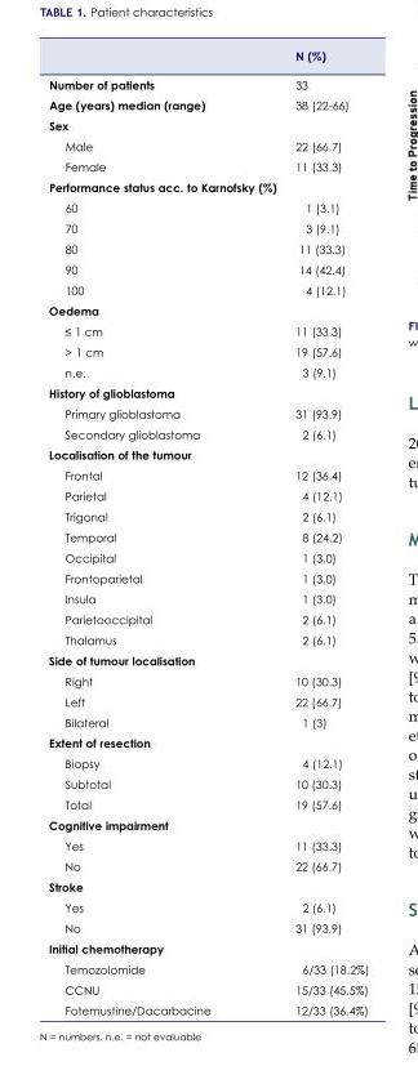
<table><thead><tr><td></td><td>N (%)</td></tr></thead><tbody><tr><td>Number of patients</td><td>33</td></tr><tr><td>Age (years) median (range)</td><td>38 (22-66)</td></tr><tr><td colspan="2">Sex</td></tr><tr><td>Male</td><td>22 (66.7)</td></tr><tr><td>Female</td><td>11 (33.3)</td></tr><tr><td colspan="2">Performance status acc. to Karnofsky (%)</td></tr><tr><td>60</td><td>1 (3.1)</td></tr><tr><td>70</td><td>3 (9.1)</td></tr><tr><td>80</td><td>11 (33.3)</td></tr><tr><td>90</td><td>14 (42.4)</td></tr><tr><td>100</td><td>4 (12.1)</td></tr><tr><td colspan="2">Oedema</td></tr><tr><td>≤ 1 cm</td><td>11 (33.3)</td></tr><tr><td>&gt; 1 cm</td><td>19 (57.6)</td></tr><tr><td>n.e.</td><td>3 (9.1)</td></tr><tr><td colspan="2">History of glioblastoma</td></tr><tr><td>Primary glioblastoma</td><td>31 (93.9)</td></tr><tr><td>Secondary glioblastoma</td><td>2 (6.1)</td></tr><tr><td colspan="2">Localisation of the tumour</td></tr><tr><td>Frontal</td><td>12 (36.4)</td></tr><tr><td>Parietal</td><td>4 (12.1)</td></tr><tr><td>Trigonal</td><td>2 (6.1)</td></tr><tr><td>Temporal</td><td>8 (24.2)</td></tr><tr><td>Occipital</td><td>1 (3.0)</td></tr><tr><td>Frontoparietal</td><td>1 (3.0)</td></tr><tr><td>Insula</td><td>1 (3.0)</td></tr><tr><td>Parietooccipital</td><td>2 (6.1)</td></tr><tr><td>Thalamus</td><td>2 (6.1)</td></tr><tr><td colspan="2">Side of tumour localisation</td></tr><tr><td>Right</td><td>10 (30.3)</td></tr><tr><td>Left</td><td>22 (66.7)</td></tr><tr><td>Bilateral</td><td>1 (3)</td></tr><tr><td colspan="2">Extent of resection</td></tr><tr><td>Biopsy</td><td>4 (12.1)</td></tr><tr><td>Subtotal</td><td>10 (30.3)</td></tr><tr><td>Total</td><td>19 (57.6)</td></tr><tr><td colspan="2">Cognitive impairment</td></tr><tr><td>Yes</td><td>11 (33.3)</td></tr><tr><td>No</td><td>22 (66.7)</td></tr><tr><td colspan="2">Stroke</td></tr><tr><td>Yes</td><td>2 (6.1)</td></tr><tr><td>No</td><td>31 (93.9)</td></tr><tr><td colspan="2">Initial chemotherapy</td></tr><tr><td>Temozolomide</td><td>6/33 (18.2%)</td></tr><tr><td>CCNU</td><td>15/33 (45.5%)</td></tr><tr><td>Fotemustine/Dacarbacine</td><td>12/33 (36.4%)</td></tr></tbody></table>